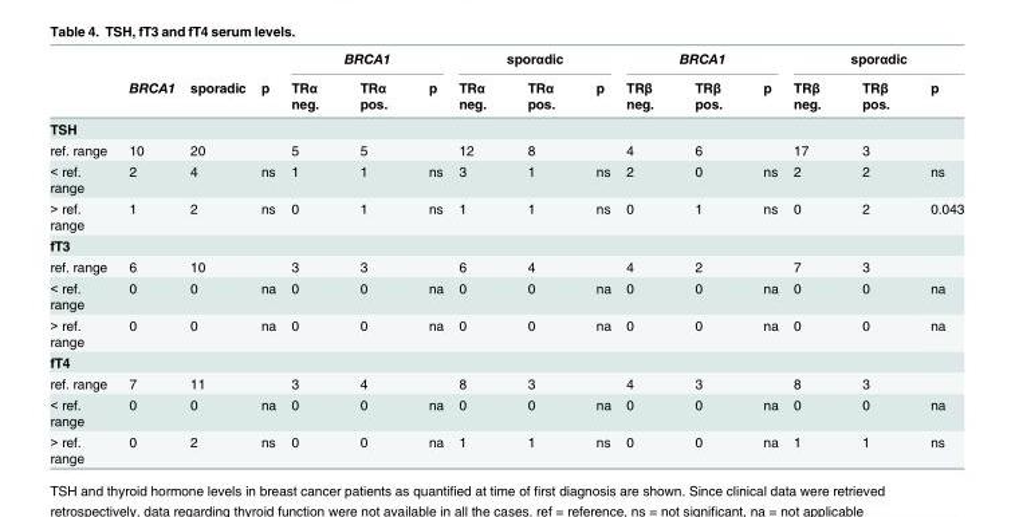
<table><thead><tr><td rowspan="2"></td><td rowspan="2">BRCA1</td><td rowspan="2">sporadic</td><td rowspan="2">p</td><td colspan="3">BRCA1</td><td colspan="3">sporαdic</td><td colspan="3">BRCA1</td><td colspan="3">sporαdic</td></tr><tr><td>TRα neg.</td><td>TRα pos.</td><td>p</td><td>TRα neg.</td><td>TRα pos.</td><td>p</td><td>TRβ neg.</td><td>TRβ pos.</td><td>p</td><td>TRβ neg.</td><td>TRβ pos.</td><td>p</td></tr></thead><tbody><tr><td colspan="16">TSH</td></tr><tr><td>ref. range</td><td>10</td><td>20</td><td></td><td>5</td><td>5</td><td></td><td>12</td><td>8</td><td></td><td>4</td><td>6</td><td></td><td>17</td><td>3</td><td></td></tr><tr><td>&lt; ref. range</td><td>2</td><td>4</td><td>ns</td><td>1</td><td>1</td><td>ns</td><td>3</td><td>1</td><td>ns</td><td>2</td><td>0</td><td>ns</td><td>2</td><td>2</td><td>ns</td></tr><tr><td>&gt; ref. range</td><td>1</td><td>2</td><td>ns</td><td>0</td><td>1</td><td>ns</td><td>1</td><td>1</td><td>ns</td><td>0</td><td>1</td><td>ns</td><td>0</td><td>2</td><td>0.043</td></tr><tr><td colspan="16">fT3</td></tr><tr><td>ref. range</td><td>6</td><td>10</td><td></td><td>3</td><td>3</td><td></td><td>6</td><td>4</td><td></td><td>4</td><td>2</td><td></td><td>7</td><td>3</td><td></td></tr><tr><td>&lt; ref. range</td><td>0</td><td>0</td><td>na</td><td>0</td><td>0</td><td>na</td><td>0</td><td>0</td><td>na</td><td>0</td><td>0</td><td>na</td><td>0</td><td>0</td><td>na</td></tr><tr><td>&gt; ref. range</td><td>0</td><td>0</td><td>na</td><td>0</td><td>0</td><td>na</td><td>0</td><td>0</td><td>na</td><td>0</td><td>0</td><td>na</td><td>0</td><td>0</td><td>na</td></tr><tr><td colspan="16">fT4</td></tr><tr><td>ref. range</td><td>7</td><td>11</td><td></td><td>3</td><td>4</td><td></td><td>8</td><td>3</td><td></td><td>4</td><td>3</td><td></td><td>8</td><td>3</td><td></td></tr><tr><td>&lt; ref. range</td><td>0</td><td>0</td><td>na</td><td>0</td><td>0</td><td>na</td><td>0</td><td>0</td><td>na</td><td>0</td><td>0</td><td>na</td><td>0</td><td>0</td><td>na</td></tr><tr><td>&gt; ref. range</td><td>0</td><td>2</td><td>ns</td><td>0</td><td>0</td><td>na</td><td>1</td><td>1</td><td>ns</td><td>0</td><td>0</td><td>na</td><td>1</td><td>1</td><td>ns</td></tr></tbody></table>